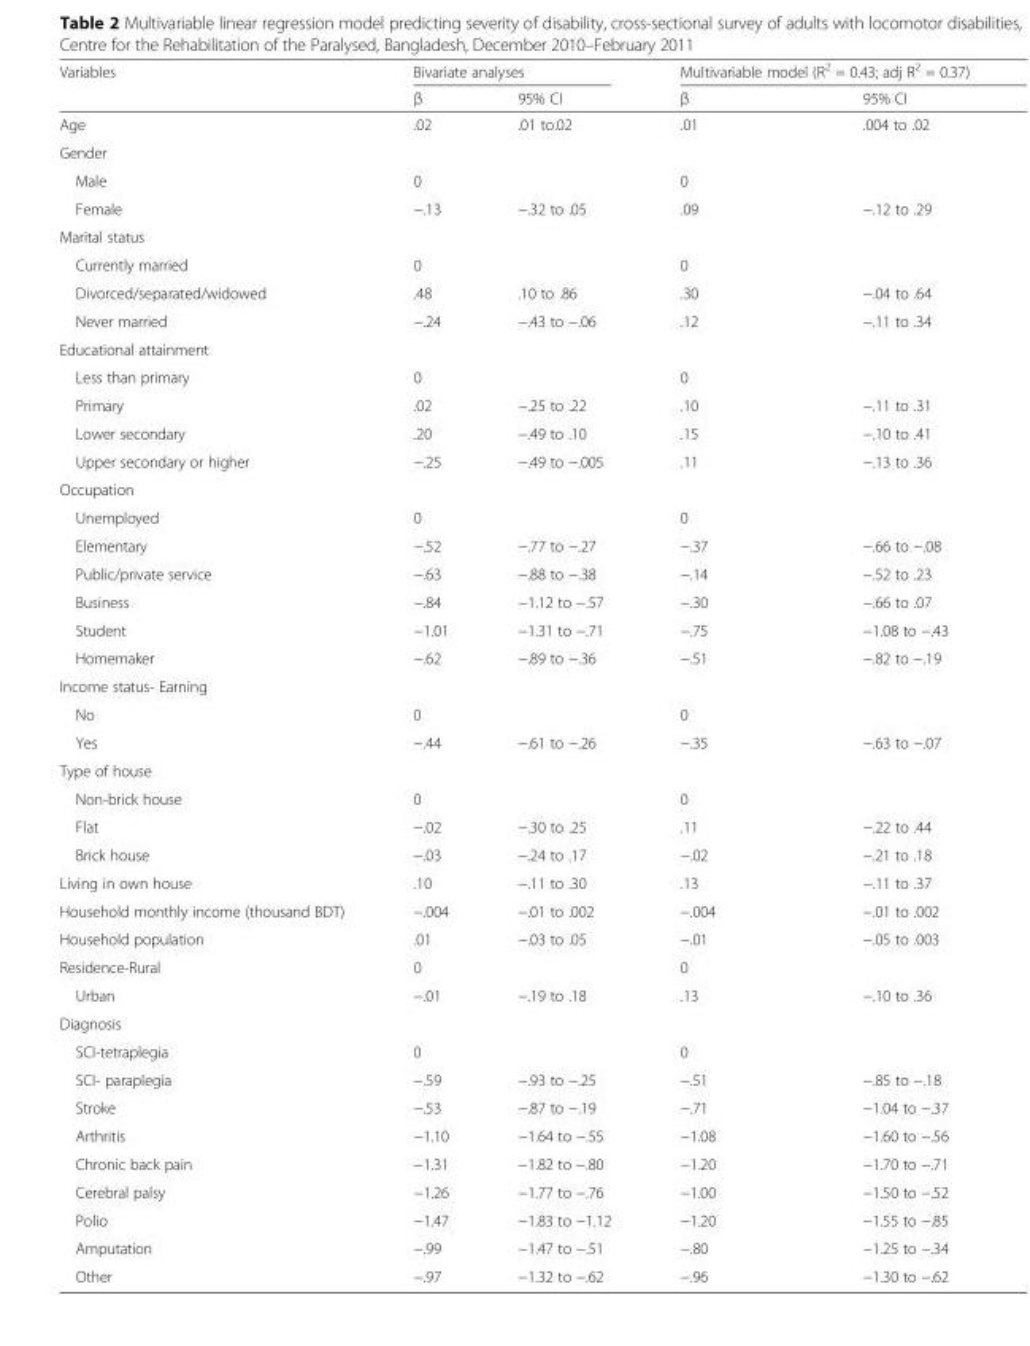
<table><thead><tr><td rowspan="2">Variables</td><td colspan="2">Bivariate analyses</td><td colspan="2">Multivariable model (R<sup>2</sup> = 0.43; adj R<sup>2</sup> = 0.37)</td></tr><tr><td>β</td><td>95% CI</td><td>β</td><td>95% CI</td></tr></thead><tbody><tr><td>Age</td><td>.02</td><td>.01 to.02</td><td>.01</td><td>.004 to .02</td></tr><tr><td colspan="5">Gender</td></tr><tr><td>Male</td><td>0</td><td></td><td>0</td><td></td></tr><tr><td>Female</td><td>−.13</td><td>−.32 to .05</td><td>.09</td><td>−.12 to .29</td></tr><tr><td colspan="5">Marital status</td></tr><tr><td>Currently married</td><td>0</td><td></td><td>0</td><td></td></tr><tr><td>Divorced/separated/widowed</td><td>.48</td><td>.10 to .86</td><td>.30</td><td>−.04 to .64</td></tr><tr><td>Never married</td><td>−.24</td><td>−.43 to −.06</td><td>.12</td><td>−.11 to .34</td></tr><tr><td colspan="5">Educational attainment</td></tr><tr><td>Less than primary</td><td>0</td><td></td><td>0</td><td></td></tr><tr><td>Primary</td><td>.02</td><td>−.25 to .22</td><td>.10</td><td>−.11 to .31</td></tr><tr><td>Lower secondary</td><td>.20</td><td>−.49 to .10</td><td>.15</td><td>−.10 to .41</td></tr><tr><td>Upper secondary or higher</td><td>−.25</td><td>−.49 to −.005</td><td>.11</td><td>−.13 to .36</td></tr><tr><td colspan="5">Occupation</td></tr><tr><td>Unemployed</td><td>0</td><td></td><td>0</td><td></td></tr><tr><td>Elementary</td><td>−.52</td><td>−.77 to −.27</td><td>−.37</td><td>−.66 to −.08</td></tr><tr><td>Public/private service</td><td>−.63</td><td>−.88 to −.38</td><td>−.14</td><td>−.52 to .23</td></tr><tr><td>Business</td><td>−.84</td><td>−1.12 to −.57</td><td>−.30</td><td>−.66 to .07</td></tr><tr><td>Student</td><td>−1.01</td><td>−1.31 to −.71</td><td>−.75</td><td>−1.08 to −.43</td></tr><tr><td>Homemaker</td><td>−.62</td><td>−.89 to −.36</td><td>−.51</td><td>−.82 to −.19</td></tr><tr><td colspan="5">Income status- Earning</td></tr><tr><td>No</td><td>0</td><td></td><td>0</td><td></td></tr><tr><td>Yes</td><td>−.44</td><td>−.61 to −.26</td><td>−.35</td><td>−.63 to −.07</td></tr><tr><td colspan="5">Type of house</td></tr><tr><td>Non-brick house</td><td>0</td><td></td><td>0</td><td></td></tr><tr><td>Flat</td><td>−.02</td><td>−.30 to .25</td><td>.11</td><td>−.22 to .44</td></tr><tr><td>Brick house</td><td>−.03</td><td>−.24 to .17</td><td>−.02</td><td>−.21 to .18</td></tr><tr><td>Living in own house</td><td>.10</td><td>−.11 to .30</td><td>.13</td><td>−.11 to .37</td></tr><tr><td>Household monthly income (thousand BDT)</td><td>−.004</td><td>−.01 to .002</td><td>−.004</td><td>−.01 to .002</td></tr><tr><td>Household population</td><td>.01</td><td>−.03 to .05</td><td>−.01</td><td>−.05 to .003</td></tr><tr><td>Residence-Rural</td><td>0</td><td></td><td>0</td><td></td></tr><tr><td>Urban</td><td>−.01</td><td>−.19 to .18</td><td>.13</td><td>−.10 to .36</td></tr><tr><td colspan="5">Diagnosis</td></tr><tr><td>SCI-tetraplegia</td><td>0</td><td></td><td>0</td><td></td></tr><tr><td>SCI- paraplegia</td><td>−.59</td><td>−.93 to −.25</td><td>−.51</td><td>−.85 to −.18</td></tr><tr><td>Stroke</td><td>−.53</td><td>−.87 to −.19</td><td>−.71</td><td>−1.04 to −.37</td></tr><tr><td>Arthritis</td><td>−1.10</td><td>−1.64 to −.55</td><td>−1.08</td><td>−1.60 to −.56</td></tr><tr><td>Chronic back pain</td><td>−1.31</td><td>−1.82 to −.80</td><td>−1.20</td><td>−1.70 to −.71</td></tr><tr><td>Cerebral palsy</td><td>−1.26</td><td>−1.77 to −.76</td><td>−1.00</td><td>−1.50 to −.52</td></tr><tr><td>Polio</td><td>−1.47</td><td>−1.83 to −1.12</td><td>−1.20</td><td>−1.55 to −.85</td></tr><tr><td>Amputation</td><td>−.99</td><td>−1.47 to −.51</td><td>−.80</td><td>−1.25 to −.34</td></tr><tr><td>Other</td><td>−.97</td><td>−1.32 to −.62</td><td>−.96</td><td>−1.30 to −.62</td></tr></tbody></table>